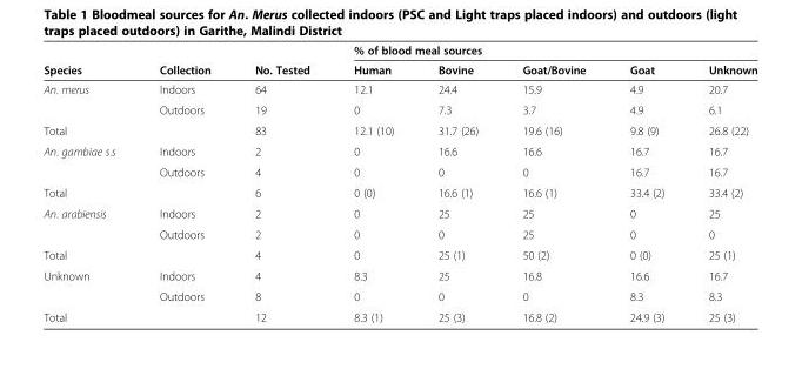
<table><thead><tr><td rowspan="2">Species</td><td rowspan="2">Collection</td><td rowspan="2">No. Tested</td><td colspan="5">% of blood meal sources</td></tr><tr><td>Human</td><td>Bovine</td><td>Goat/Bovine</td><td>Goat</td><td>Unknown</td></tr></thead><tbody><tr><td rowspan="2">An. merus</td><td>Indoors</td><td>64</td><td>12.1</td><td>24.4</td><td>15.9</td><td>4.9</td><td>20.7</td></tr><tr><td>Outdoors</td><td>19</td><td>0</td><td>7.3</td><td>3.7</td><td>4.9</td><td>6.1</td></tr><tr><td>Total</td><td></td><td>83</td><td>12.1 (10)</td><td>31.7 (26)</td><td>19.6 (16)</td><td>9.8 (9)</td><td>26.8 (22)</td></tr><tr><td rowspan="2">An. gambiae s.s</td><td>Indoors</td><td>2</td><td>0</td><td>16.6</td><td>16.6</td><td>16.7</td><td>16.7</td></tr><tr><td>Outdoors</td><td>4</td><td>0</td><td>0</td><td>0</td><td>16.7</td><td>16.7</td></tr><tr><td>Total</td><td></td><td>6</td><td>0 (0)</td><td>16.6 (1)</td><td>16.6 (1)</td><td>33.4 (2)</td><td>33.4 (2)</td></tr><tr><td rowspan="2">An. arabiensis</td><td>Indoors</td><td>2</td><td>0</td><td>25</td><td>25</td><td>0</td><td>25</td></tr><tr><td>Outdoors</td><td>2</td><td>0</td><td>0</td><td>25</td><td>0</td><td>0</td></tr><tr><td>Total</td><td></td><td>4</td><td>0</td><td>25 (1)</td><td>50 (2)</td><td>0 (0)</td><td>25 (1)</td></tr><tr><td rowspan="2">Unknown</td><td>Indoors</td><td>4</td><td>8.3</td><td>25</td><td>16.8</td><td>16.6</td><td>16.7</td></tr><tr><td>Outdoors</td><td>8</td><td>0</td><td>0</td><td>0</td><td>8.3</td><td>8.3</td></tr><tr><td>Total</td><td></td><td>12</td><td>8.3 (1)</td><td>25 (3)</td><td>16.8 (2)</td><td>24.9 (3)</td><td>25 (3)</td></tr></tbody></table>